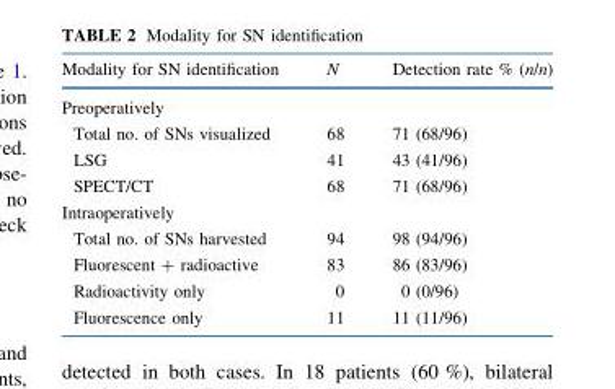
<table><thead><tr><td>Modality for SN identification</td><td>N</td><td>Detection rate % (n/n)</td></tr></thead><tbody><tr><td colspan="3">Preoperatively</td></tr><tr><td>Total no. of SNs visualized</td><td>68</td><td>71 (68/96)</td></tr><tr><td>LSG</td><td>41</td><td>43 (41/96)</td></tr><tr><td>SPECT/CT</td><td>68</td><td>71 (68/96)</td></tr><tr><td colspan="3">Intraoperatively</td></tr><tr><td>Total no. of SNs harvested</td><td>94</td><td>98 (94/96)</td></tr><tr><td>Fluorescent + radioactive</td><td>83</td><td>86 (83/96)</td></tr><tr><td>Radioactivity only</td><td>0</td><td>0 (0/96)</td></tr><tr><td>Fluorescence only</td><td>11</td><td>11 (11/96)</td></tr></tbody></table>